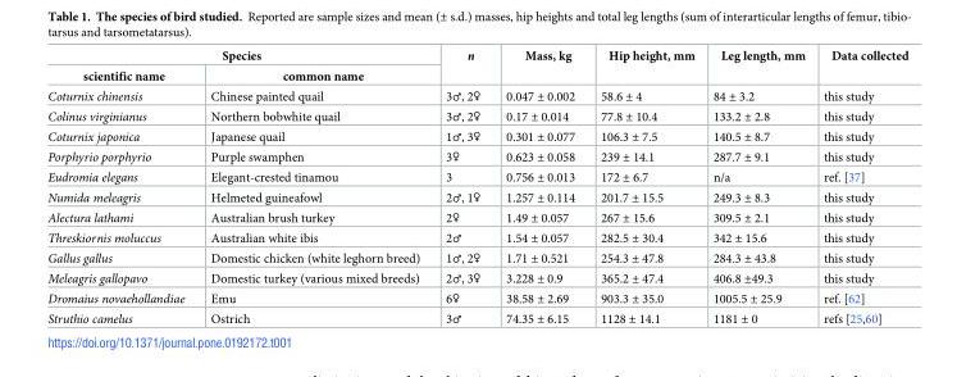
<table><thead><tr><td colspan="2">Species</td><td rowspan="2">n</td><td rowspan="2">Mass, kg</td><td rowspan="2">Hip height, mm</td><td rowspan="2">Leg length, mm</td><td rowspan="2">Data collected</td></tr><tr><td>scientific name</td><td>common name</td></tr></thead><tbody><tr><td>Coturnix chinensis</td><td>Chinese painted quail</td><td>3♂, 2♀</td><td>0.047 ± 0.002</td><td>58.6 ± 4</td><td>84 ± 3.2</td><td>this study</td></tr><tr><td>Colinus virginianus</td><td>Northern bobwhite quail</td><td>3♂, 2♀</td><td>0.17 ± 0.014</td><td>77.8 ± 10.4</td><td>133.2 ± 2.8</td><td>this study</td></tr><tr><td>Coturnix japonica</td><td>Japanese quail</td><td>1♂, 3♀</td><td>0.301 ± 0.077</td><td>106.3 ± 7.5</td><td>140.5 ± 8.7</td><td>this study</td></tr><tr><td>Porphyrio porphyrio</td><td>Purple swamphen</td><td>3♀</td><td>0.623 ± 0.058</td><td>239 ± 14.1</td><td>287.7 ± 9.1</td><td>this study</td></tr><tr><td>Eudromia elegans</td><td>Elegant-crested tinamou</td><td>3</td><td>0.756 ± 0.013</td><td>172 ± 6.7</td><td>n/a</td><td>ref. [37]</td></tr><tr><td>Numida meleagris</td><td>Helmeted guineafowl</td><td>2♂, 1♀</td><td>1.257 ± 0.114</td><td>201.7 ± 15.5</td><td>249.3 ± 8.3</td><td>this study</td></tr><tr><td>Alectura lathami</td><td>Australian brush turkey</td><td>2♀</td><td>1.49 ± 0.057</td><td>267 ± 15.6</td><td>309.5 ± 2.1</td><td>this study</td></tr><tr><td>Threskiornis moluccus</td><td>Australian white ibis</td><td>2♂</td><td>1.54 ± 0.057</td><td>282.5 ± 30.4</td><td>342 ± 15.6</td><td>this study</td></tr><tr><td>Gallus gallus</td><td>Domestic chicken (white leghorn breed)</td><td>1♂, 2♀</td><td>1.71 ± 0.521</td><td>254.3 ± 47.8</td><td>284.3 ± 43.8</td><td>this study</td></tr><tr><td>Meleagris gallopavo</td><td>Domestic turkey (various mixed breeds)</td><td>2♂, 3♀</td><td>3.228 ± 0.9</td><td>365.2 ± 47.4</td><td>406.8 ±49.3</td><td>this study</td></tr><tr><td>Dromaius novaehollandiae</td><td>Emu</td><td>6♀</td><td>38.58 ± 2.69</td><td>903.3 ± 35.0</td><td>1005.5 ± 25.9</td><td>ref. [62]</td></tr><tr><td>Struthio camelus</td><td>Ostrich</td><td>3♂</td><td>74.35 ± 6.15</td><td>1128 ± 14.1</td><td>1181 ± 0</td><td>refs [25,60]</td></tr></tbody></table>